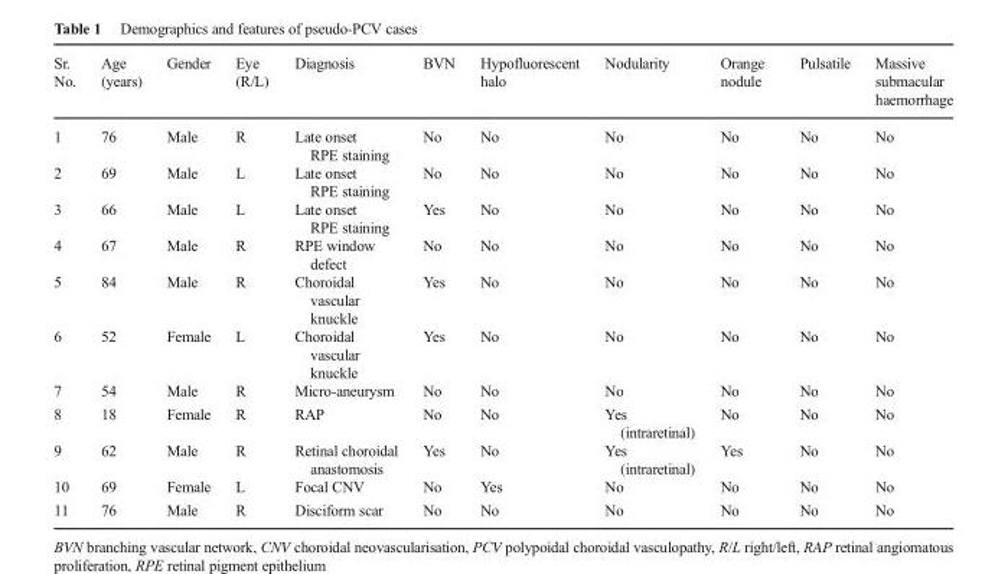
<table><thead><tr><td>Sr. No.</td><td>Age (years)</td><td>Gender</td><td>Eye (R/L)</td><td>Diagnosis</td><td>BVN</td><td>Hypofluorescent halo</td><td>Nodularity</td><td>Orange nodule</td><td>Pulsatile</td><td>Massive submacular haemorrhage</td></tr></thead><tbody><tr><td>1</td><td>76</td><td>Male</td><td>R</td><td>Late onset RPE staining</td><td>No</td><td>No</td><td>No</td><td>No</td><td>No</td><td>No</td></tr><tr><td>2</td><td>69</td><td>Male</td><td>L</td><td>Late onset RPE staining</td><td>No</td><td>No</td><td>No</td><td>No</td><td>No</td><td>No</td></tr><tr><td>3</td><td>66</td><td>Male</td><td>L</td><td>Late onset RPE staining</td><td>Yes</td><td>No</td><td>No</td><td>No</td><td>No</td><td>No</td></tr><tr><td>4</td><td>67</td><td>Male</td><td>R</td><td>RPE window defect</td><td>No</td><td>No</td><td>No</td><td>No</td><td>No</td><td>No</td></tr><tr><td>5</td><td>84</td><td>Male</td><td>R</td><td>Choroidal vascular knuckle</td><td>Yes</td><td>No</td><td>No</td><td>No</td><td>No</td><td>No</td></tr><tr><td>6</td><td>52</td><td>Female</td><td>L</td><td>Choroidal vascular knuckle</td><td>Yes</td><td>No</td><td>No</td><td>No</td><td>No</td><td>No</td></tr><tr><td>7</td><td>54</td><td>Male</td><td>R</td><td>Micro-aneurysm</td><td>No</td><td>No</td><td>No</td><td>No</td><td>No</td><td>No</td></tr><tr><td>8</td><td>18</td><td>Female</td><td>R</td><td>RAP</td><td>No</td><td>No</td><td>Yes (intraretinal)</td><td>No</td><td>No</td><td>No</td></tr><tr><td>9</td><td>62</td><td>Male</td><td>R</td><td>Retinal choroidal anastomosis</td><td>Yes</td><td>No</td><td>Yes (intraretinal)</td><td>Yes</td><td>No</td><td>No</td></tr><tr><td>10</td><td>69</td><td>Female</td><td>L</td><td>Focal CNV</td><td>No</td><td>Yes</td><td>No</td><td>No</td><td>No</td><td>No</td></tr><tr><td>11</td><td>76</td><td>Male</td><td>R</td><td>Disciform scar</td><td>No</td><td>No</td><td>No</td><td>No</td><td>No</td><td>No</td></tr></tbody></table>